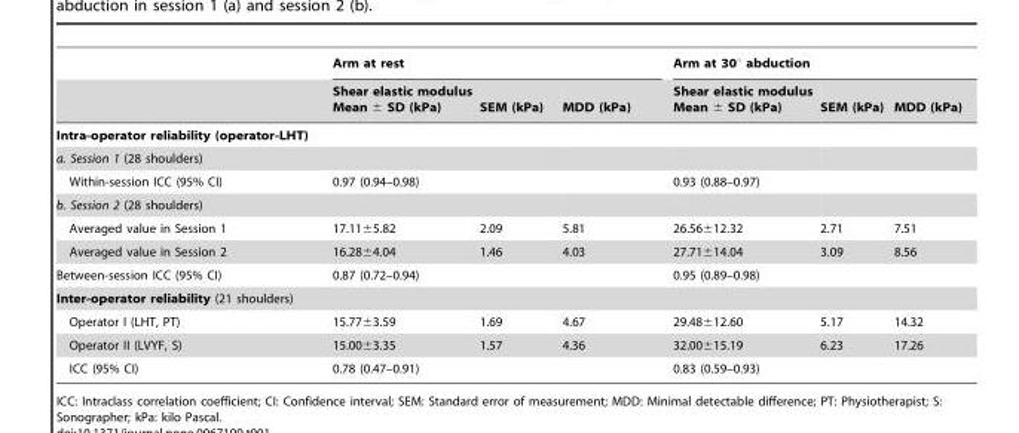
<table><thead><tr><td rowspan="2"></td><td colspan="3">Arm at rest</td><td colspan="3">Arm at 30° abduction</td></tr><tr><td>Shear elastic modulus Mean ± SD (kPa)</td><td>SEM (kPa)</td><td>MDD (kPa)</td><td>Shear elastic modulus Mean ± SD (kPa)</td><td>SEM (kPa)</td><td>MDD (kPa)</td></tr></thead><tbody><tr><td colspan="7">Intra-operator reliability (operator-LHT)</td></tr><tr><td colspan="7">a. Session 1 (28 shoulders)</td></tr><tr><td>Within-session ICC (95% CI)</td><td colspan="3">0.97 (0.94–0.98)</td><td colspan="3">0.93 (0.88–0.97)</td></tr><tr><td colspan="7">b. Session 2 (28 shoulders)</td></tr><tr><td>Averaged value in Session 1</td><td>17.11±5.82</td><td>2.09</td><td>5.81</td><td>26.56±12.32</td><td>2.71</td><td>7.51</td></tr><tr><td>Averaged value in Session 2</td><td>16.28±4.04</td><td>1.46</td><td>4.03</td><td>27.71±14.04</td><td>3.09</td><td>8.56</td></tr><tr><td>Between-session ICC (95% CI)</td><td colspan="3">0.87 (0.72–0.94)</td><td colspan="3">0.95 (0.89–0.98)</td></tr><tr><td colspan="7">Inter-operator reliability (21 shoulders)</td></tr><tr><td>Operator I (LHT, PT)</td><td>15.77±3.59</td><td>1.69</td><td>4.67</td><td>29.48±12.60</td><td>5.17</td><td>14.32</td></tr><tr><td>Operator II (LVYF, S)</td><td>15.00±3.35</td><td>1.57</td><td>4.36</td><td>32.00±15.19</td><td>6.23</td><td>17.26</td></tr><tr><td>ICC (95% CI)</td><td colspan="3">0.78 (0.47–0.91)</td><td colspan="3">0.83 (0.59–0.93)</td></tr></tbody></table>